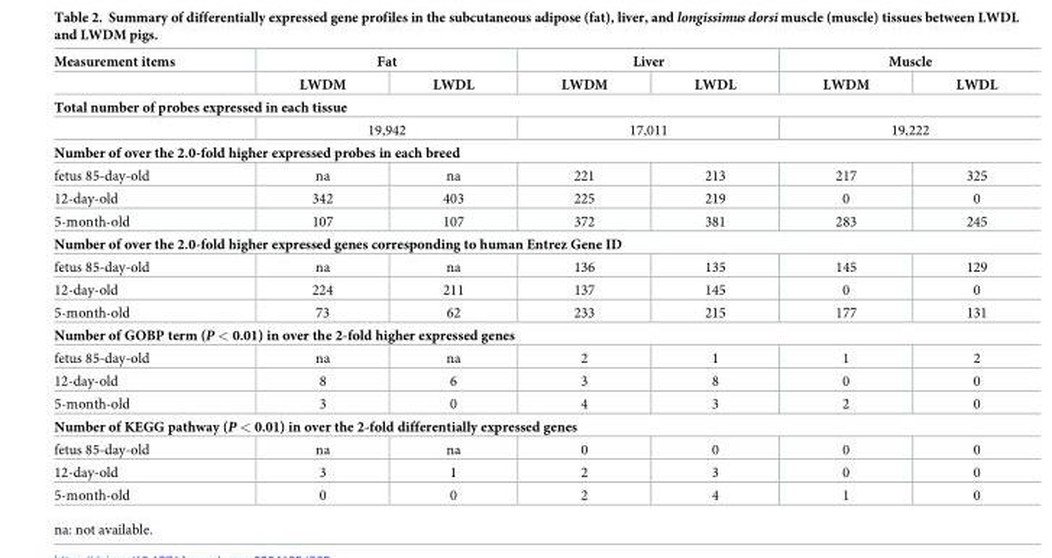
<table><thead><tr><td rowspan="2">Measurement items</td><td colspan="2">Fat</td><td colspan="2">Liver</td><td colspan="2">Muscle</td></tr><tr><td>LWDM</td><td>LWDL</td><td>LWDM</td><td>LWDL</td><td>LWDM</td><td>LWDL</td></tr></thead><tbody><tr><td colspan="7">Total number of probes expressed in each tissue</td></tr><tr><td></td><td colspan="2">19,942</td><td colspan="2">17,011</td><td colspan="2">19,222</td></tr><tr><td colspan="7">Number of over the 2.0-fold higher expressed probes in each breed</td></tr><tr><td>fetus 85-day-old</td><td>na</td><td>na</td><td>221</td><td>213</td><td>217</td><td>325</td></tr><tr><td>12-day-old</td><td>342</td><td>403</td><td>225</td><td>219</td><td>0</td><td>0</td></tr><tr><td>5-month-old</td><td>107</td><td>107</td><td>372</td><td>381</td><td>283</td><td>245</td></tr><tr><td colspan="7">Number of over the 2.0-fold higher expressed genes corresponding to human Entrez Gene ID</td></tr><tr><td>fetus 85-day-old</td><td>na</td><td>na</td><td>136</td><td>135</td><td>145</td><td>129</td></tr><tr><td>12-day-old</td><td>224</td><td>211</td><td>137</td><td>145</td><td>0</td><td>0</td></tr><tr><td>5-month-old</td><td>73</td><td>62</td><td>233</td><td>215</td><td>177</td><td>131</td></tr><tr><td colspan="7">Number of GOBP term (P &lt; 0.01) in over the 2-fold higher expressed genes</td></tr><tr><td>fetus 85-day-old</td><td>na</td><td>na</td><td>2</td><td>1</td><td>1</td><td>2</td></tr><tr><td>12-day-old</td><td>8</td><td>6</td><td>3</td><td>8</td><td>0</td><td>0</td></tr><tr><td>5-month-old</td><td>3</td><td>0</td><td>4</td><td>3</td><td>2</td><td>0</td></tr><tr><td colspan="7">Number of KEGG pathway (P &lt; 0.01) in over the 2-fold differentially expressed genes</td></tr><tr><td>fetus 85-day-old</td><td>na</td><td>na</td><td>0</td><td>0</td><td>0</td><td>0</td></tr><tr><td>12-day-old</td><td>3</td><td>1</td><td>2</td><td>3</td><td>0</td><td>0</td></tr><tr><td>5-month-old</td><td>0</td><td>0</td><td>2</td><td>4</td><td>1</td><td>0</td></tr></tbody></table>